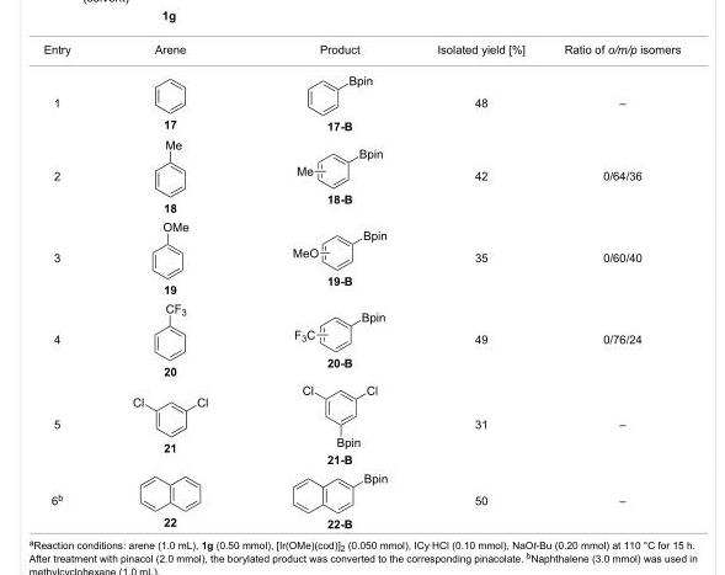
<table><tbody><tr><td>Entry</td><td>Arene</td><td>Product</td><td>Isolated yield [%]</td><td>Ratio of o/m/p isomers</td></tr><tr><td>1</td><td>17</td><td>17-B</td><td>48</td><td>–</td></tr><tr><td>2</td><td>18</td><td>18-B</td><td>42</td><td>0/64/36</td></tr><tr><td>3</td><td>19</td><td>19-B</td><td>35</td><td>0/60/40</td></tr><tr><td>4</td><td>20</td><td>20-B</td><td>49</td><td>0/76/24</td></tr><tr><td>5</td><td>21</td><td>21-B</td><td>31</td><td>–</td></tr><tr><td>6<sup>b</sup></td><td>22</td><td>22-B</td><td>50</td><td>–</td></tr></tbody></table>